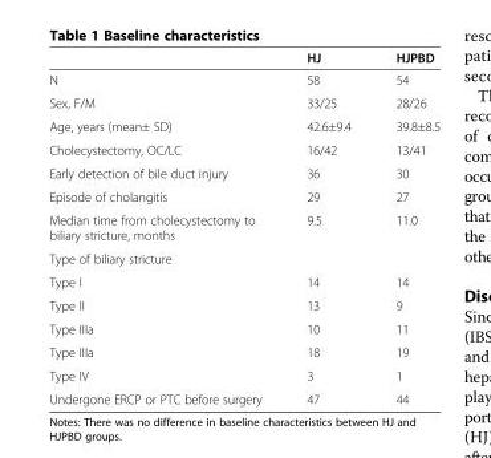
<table><thead><tr><td></td><td>HJ</td><td>HJPBD</td></tr></thead><tbody><tr><td>N</td><td>58</td><td>54</td></tr><tr><td>Sex, F/M</td><td>33/25</td><td>28/26</td></tr><tr><td>Age, years (mean± SD)</td><td>42.6±9.4</td><td>39.8±8.5</td></tr><tr><td>Cholecystectomy, OC/LC</td><td>16/42</td><td>13/41</td></tr><tr><td>Early detection of bile duct injury</td><td>36</td><td>30</td></tr><tr><td>Episode of cholangitis</td><td>29</td><td>27</td></tr><tr><td>Median time from cholecystectomy to biliary stricture, months</td><td>9.5</td><td>11.0</td></tr><tr><td colspan="3">Type of biliary stricture</td></tr><tr><td>Type I</td><td>14</td><td>14</td></tr><tr><td>Type II</td><td>13</td><td>9</td></tr><tr><td>Type IIIa</td><td>10</td><td>11</td></tr><tr><td>Type IIIa</td><td>18</td><td>19</td></tr><tr><td>Type IV</td><td>3</td><td>1</td></tr><tr><td>Undergone ERCP or PTC before surgery</td><td>47</td><td>44</td></tr></tbody></table>